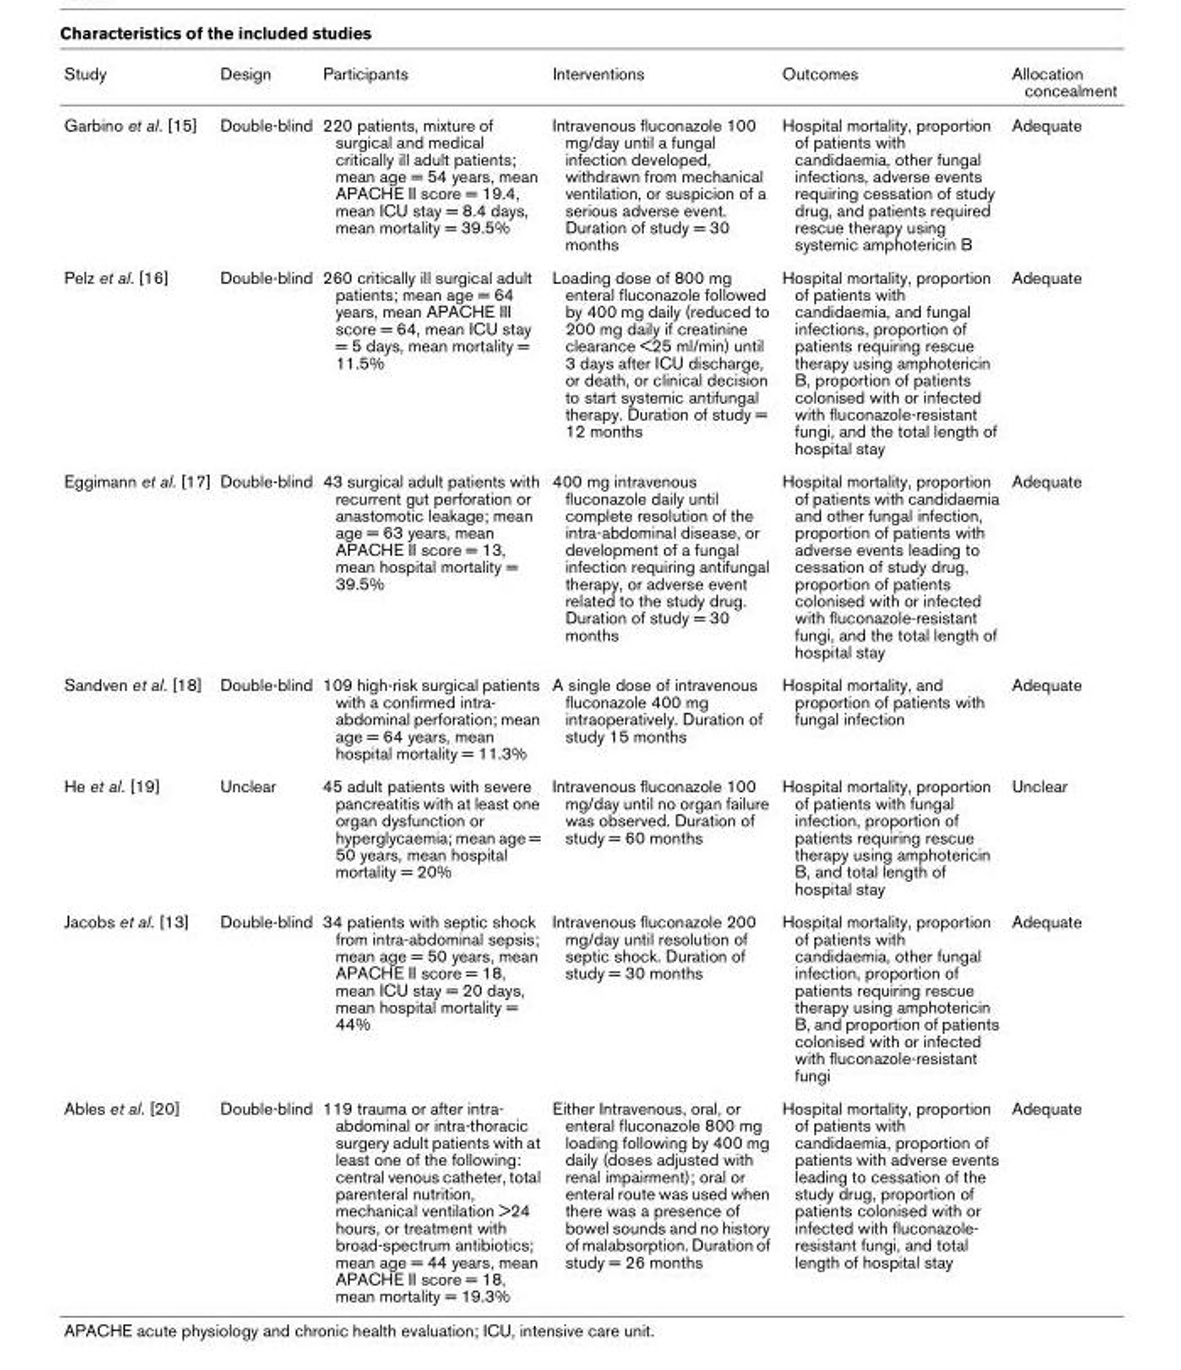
<table><thead><tr><td>Study</td><td>Design</td><td>Participants</td><td>Interventions</td><td>Outcomes</td><td>Allocation concealment</td></tr></thead><tbody><tr><td>Garbino et al. [15]</td><td>Double-blind</td><td>220 patients, mixture of surgical and medical critically ill adult patients; mean age = 54 years, mean APACHE II score = 19.4, mean ICU stay = 8.4 days, mean mortality = 39.5%</td><td>Intravenous fluconazole 100 mg/day until a fungal infection developed, withdrawn from mechanical ventilation, or suspicion of a serious adverse event. Duration of study = 30 months</td><td>Hospital mortality, proportion of patients with candidaemia, other fungal infections, adverse events requiring cessation of study drug, and patients required rescue therapy using systemic amphotericin B</td><td>Adequate</td></tr><tr><td>Pelz et al. [16]</td><td>Double-blind</td><td>260 critically ill surgical adult patients; mean age = 64 years, mean APACHE III score = 64, mean ICU stay = 5 days, mean mortality = 11.5%</td><td>Loading dose of 800 mg enteral fluconazole followed by 400 mg daily (reduced to 200 mg daily if creatinine clearance &lt;25 ml/min) until 3 days after ICU discharge, or death, or clinical decision to start systemic antifungal therapy. Duration of study = 12 months</td><td>Hospital mortality, proportion of patients with candidaemia, and fungal infections, proportion of patients requiring rescue therapy using amphotericin B, proportion of patients colonised with or infected with fluconazole-resistant fungi, and the total length of hospital stay</td><td>Adequate</td></tr><tr><td>Eggimann et al. [17]</td><td>Double-blind</td><td>43 surgical adult patients with recurrent gut perforation or anastomotic leakage; mean age = 63 years, mean APACHE II score = 13, mean hospital mortality = 39.5%</td><td>400 mg intravenous fluconazole daily until complete resolution of the intra-abdominal disease, or development of a fungal infection requiring antifungal therapy, or adverse event related to the study drug. Duration of study = 30 months</td><td>Hospital mortality, proportion of patients with candidaemia and other fungal infection, proportion of patients with adverse events leading to cessation of study drug, proportion of patients colonised with or infected with fluconazole-resistant fungi, and the total length of hospital stay</td><td>Adequate</td></tr><tr><td>Sandven et al. [18]</td><td>Double-blind</td><td>109 high-risk surgical patients with a confirmed intra- abdominal perforation; mean age = 64 years, mean hospital mortality = 11.3%</td><td>A single dose of intravenous fluconazole 400 mg intraoperatively. Duration of study 15 months</td><td>Hospital mortality, and proportion of patients with fungal infection</td><td>Adequate</td></tr><tr><td>He et al. [19]</td><td>Unclear</td><td>45 adult patients with severe pancreatitis with at least one organ dysfunction or hyperglycaemia; mean age = 50 years, mean hospital mortality = 20%</td><td>Intravenous fluconazole 100 mg/day until no organ failure was observed. Duration of study = 60 months</td><td>Hospital mortality, proportion of patients with fungal infection, proportion of patients requiring rescue therapy using amphotericin B, and total length of hospital stay</td><td>Unclear</td></tr><tr><td>Jacobs et al. [13]</td><td>Double-blind</td><td>34 patients with septic shock from intra-abdominal sepsis; mean age = 50 years, mean APACHE II score = 18, mean ICU stay = 20 days, mean hospital mortality = 44%</td><td>Intravenous fluconazole 200 mg/day until resolution of septic shock. Duration of study = 30 months</td><td>Hospital mortality, proportion of patients with candidaemia, other fungal infection, proportion of patients requiring rescue therapy using amphotericin B, and proportion of patients colonised with or infected with fluconazole-resistant fungi</td><td>Adequate</td></tr><tr><td>Ables et al. [20]</td><td>Double-blind</td><td>119 trauma or after intra- abdominal or intra-thoracic surgery adult patients with at least one of the following: central venous catheter, total parenteral nutrition, mechanical ventilation &gt;24 hours, or treatment with broad-spectrum antibiotics; mean age = 44 years, mean APACHE II score = 18, mean mortality = 19.3%</td><td>Either Intravenous, oral, or enteral fluconazole 800 mg loading following by 400 mg daily (doses adjusted with renal impairment); oral or enteral route was used when there was a presence of bowel sounds and no history of malabsorption. Duration of study = 26 months</td><td>Hospital mortality, proportion of patients with candidaemia, proportion of patients with adverse events leading to cessation of the study drug, proportion of patients colonised with or infected with fluconazole- resistant fungi, and total length of hospital stay</td><td>Adequate</td></tr></tbody></table>